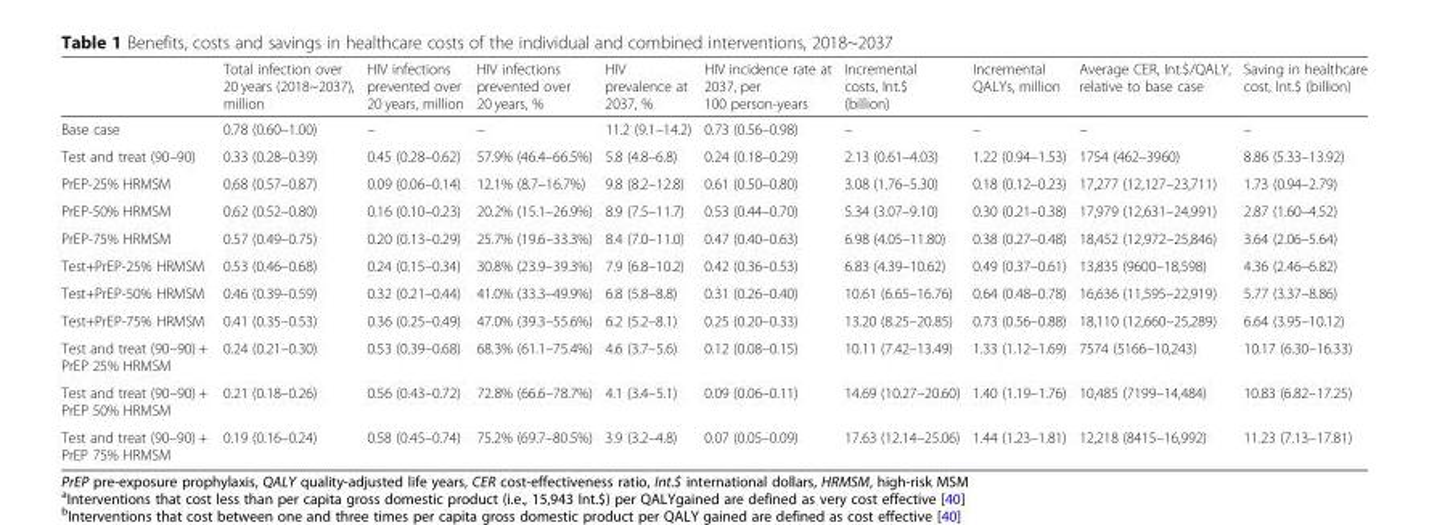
<table><thead><tr><td></td><td>Total infection over 20 years (2018~2037), million</td><td>HIV infections prevented over 20 years, million</td><td>HIV infections prevented over 20 years, %</td><td>HIV prevalence at 2037, %</td><td>HIV incidence rate at 2037, per 100 person-years</td><td>Incremental costs, Int.$ (billion)</td><td>Incremental QALYs, million</td><td>Average CER, Int.$/QALY, relative to base case</td><td>Saving in healthcare cost, Int.$ (billion)</td></tr></thead><tbody><tr><td>Base case</td><td>0.78 (0.60–1.00)</td><td>–</td><td>–</td><td>11.2 (9.1–14.2)</td><td>0.73 (0.56–0.98)</td><td>–</td><td>–</td><td>–</td><td>–</td></tr><tr><td>Test and treat (90–90)</td><td>0.33 (0.28–0.39)</td><td>0.45 (0.28–0.62)</td><td>57.9% (46.4–66.5%)</td><td>5.8 (4.8–6.8)</td><td>0.24 (0.18–0.29)</td><td>2.13 (0.61–4.03)</td><td>1.22 (0.94–1.53)</td><td>1754 (462–3960)</td><td>8.86 (5.33–13.92)</td></tr><tr><td>PrEP-25% HRMSM</td><td>0.68 (0.57–0.87)</td><td>0.09 (0.06–0.14)</td><td>12.1% (8.7–16.7%)</td><td>9.8 (8.2–12.8)</td><td>0.61 (0.50–0.80)</td><td>3.08 (1.76–5.30)</td><td>0.18 (0.12–0.23)</td><td>17,277 (12,127–23,711)</td><td>1.73 (0.94–2.79)</td></tr><tr><td>PrEP-50% HRMSM</td><td>0.62 (0.52–0.80)</td><td>0.16 (0.10–0.23)</td><td>20.2% (15.1–26.9%)</td><td>8.9 (7.5–11.7)</td><td>0.53 (0.44–0.70)</td><td>5.34 (3.07–9.10)</td><td>0.30 (0.21–0.38)</td><td>17,979 (12,631–24,991)</td><td>2.87 (1.60–4.52)</td></tr><tr><td>PrEP-75% HRMSM</td><td>0.57 (0.49–0.75)</td><td>0.20 (0.13–0.29)</td><td>25.7% (19.6–33.3%)</td><td>8.4 (7.0–11.0)</td><td>0.47 (0.40–0.63)</td><td>6.98 (4.05–11.80)</td><td>0.38 (0.27–0.48)</td><td>18,452 (12,972–25,846)</td><td>3.64 (2.06–5.64)</td></tr><tr><td>Test+PrEP-25% HRMSM</td><td>0.53 (0.46–0.68)</td><td>0.24 (0.15–0.34)</td><td>30.8% (23.9–39.3%)</td><td>7.9 (6.8–10.2)</td><td>0.42 (0.36–0.53)</td><td>6.83 (4.39–10.62)</td><td>0.49 (0.37–0.61)</td><td>13,835 (9600–18,598)</td><td>4.36 (2.46–6.82)</td></tr><tr><td>Test+PrEP-50% HRMSM</td><td>0.46 (0.39–0.59)</td><td>0.32 (0.21–0.44)</td><td>41.0% (33.3–49.9%)</td><td>6.8 (5.8–8.8)</td><td>0.31 (0.26–0.40)</td><td>10.61 (6.65–16.76)</td><td>0.64 (0.48–0.78)</td><td>16,636 (11,595–22,919)</td><td>5.77 (3.37–8.86)</td></tr><tr><td>Test+PrEP-75% HRMSM</td><td>0.41 (0.35–0.53)</td><td>0.36 (0.25–0.49)</td><td>47.0% (39.3–55.6%)</td><td>6.2 (5.2–8.1)</td><td>0.25 (0.20–0.33)</td><td>13.20 (8.25–20.85)</td><td>0.73 (0.56–0.88)</td><td>18,110 (12,660–25,289)</td><td>6.64 (3.95–10.12)</td></tr><tr><td>Test and treat (90–90) + PrEP 25% HRMSM</td><td>0.24 (0.21–0.30)</td><td>0.53 (0.39–0.68)</td><td>68.3% (61.1–75.4%)</td><td>4.6 (3.7–5.6)</td><td>0.12 (0.08–0.15)</td><td>10.11 (7.42–13.49)</td><td>1.33 (1.12–1.69)</td><td>7574 (5166–10,243)</td><td>10.17 (6.30–16.33)</td></tr><tr><td>Test and treat (90–90) + PrEP 50% HRMSM</td><td>0.21 (0.18–0.26)</td><td>0.56 (0.43–0.72)</td><td>72.8% (66.6–78.7%)</td><td>4.1 (3.4–5.1)</td><td>0.09 (0.06–0.11)</td><td>14.69 (10.27–20.60)</td><td>1.40 (1.19–1.76)</td><td>10,485 (7199–14,484)</td><td>10.83 (6.82–17.25)</td></tr><tr><td>Test and treat (90–90) + PrEP 75% HRMSM</td><td>0.19 (0.16–0.24)</td><td>0.58 (0.45–0.74)</td><td>75.2% (69.7–80.5%)</td><td>3.9 (3.2–4.8)</td><td>0.07 (0.05–0.09)</td><td>17.63 (12.14–25.06)</td><td>1.44 (1.23–1.81)</td><td>12,218 (8415–16,992)</td><td>11.23 (7.13–17.81)</td></tr></tbody></table>